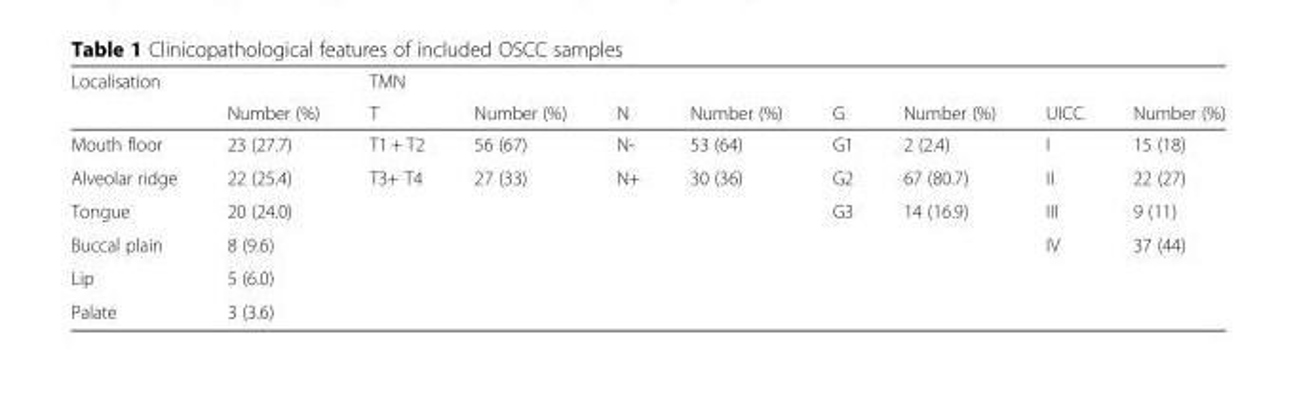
<table><thead><tr><td rowspan="2">Localisation</td><td rowspan="2">Number (%)</td><td colspan="6">TMN</td><td rowspan="2">UICC</td><td rowspan="2">Number (%)</td></tr><tr><td>T</td><td>Number (%)</td><td>N</td><td>Number (%)</td><td>G</td><td>Number (%)</td></tr></thead><tbody><tr><td>Mouth floor</td><td>23 (27.7)</td><td>T1 + T2</td><td>56 (67)</td><td>N-</td><td>53 (64)</td><td>G1</td><td>2 (2.4)</td><td>I</td><td>15 (18)</td></tr><tr><td>Alveolar ridge</td><td>22 (25.4)</td><td>T3+ T4</td><td>27 (33)</td><td>N+</td><td>30 (36)</td><td>G2</td><td>67 (80.7)</td><td>II</td><td>22 (27)</td></tr><tr><td>Tongue</td><td>20 (24.0)</td><td></td><td></td><td></td><td></td><td>G3</td><td>14 (16.9)</td><td>III</td><td>9 (11)</td></tr><tr><td>Buccal plain</td><td>8 (9.6)</td><td></td><td></td><td></td><td></td><td></td><td></td><td>IV</td><td>37 (44)</td></tr><tr><td>Lip</td><td>5 (6.0)</td><td></td><td></td><td></td><td></td><td></td><td></td><td></td><td></td></tr><tr><td>Palate</td><td>3 (3.6)</td><td></td><td></td><td></td><td></td><td></td><td></td><td></td><td></td></tr></tbody></table>